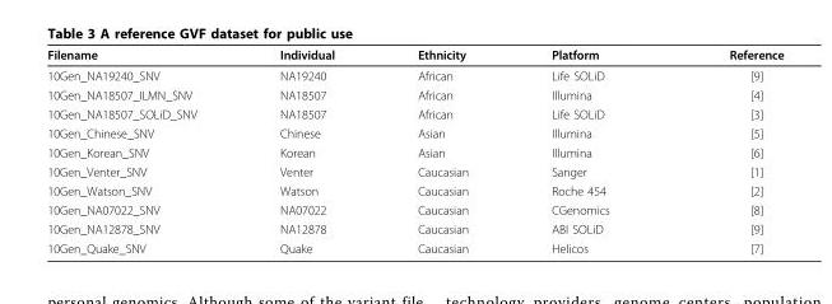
<table><thead><tr><td>Filename</td><td>Individual</td><td>Ethnicity</td><td>Platform</td><td>Reference</td></tr></thead><tbody><tr><td>10Gen_NA19240_SNV</td><td>NA19240</td><td>African</td><td>Life SOLiD</td><td>[9]</td></tr><tr><td>10Gen_NA18507_ILMN_SNV</td><td>NA18507</td><td>African</td><td>Illumina</td><td>[4]</td></tr><tr><td>10Gen_NA18507_SOLiD_SNV</td><td>NA18507</td><td>African</td><td>Life SOLiD</td><td>[3]</td></tr><tr><td>10Gen_Chinese_SNV</td><td>Chinese</td><td>Asian</td><td>Illumina</td><td>[5]</td></tr><tr><td>10Gen_Korean_SNV</td><td>Korean</td><td>Asian</td><td>Illumina</td><td>[6]</td></tr><tr><td>10Gen_Venter_SNV</td><td>Venter</td><td>Caucasian</td><td>Sanger</td><td>[1]</td></tr><tr><td>10Gen_Watson_SNV</td><td>Watson</td><td>Caucasian</td><td>Roche 454</td><td>[2]</td></tr><tr><td>10Gen_NA07022_SNV</td><td>NA07022</td><td>Caucasian</td><td>CGenomics</td><td>[8]</td></tr><tr><td>10Gen_NA12878_SNV</td><td>NA12878</td><td>Caucasian</td><td>ABI SOLiD</td><td>[9]</td></tr><tr><td>10Gen_Quake_SNV</td><td>Quake</td><td>Caucasian</td><td>Helicos</td><td>[7]</td></tr></tbody></table>